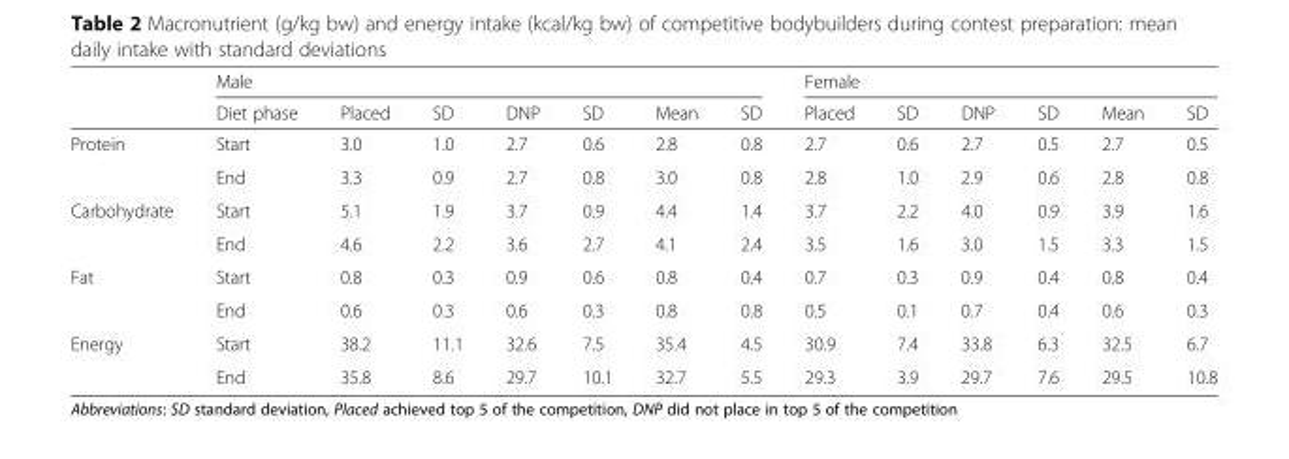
<table><thead><tr><td rowspan="2"></td><td colspan="7">Male</td><td colspan="6">Female</td></tr><tr><td>Diet phase</td><td>Placed</td><td>SD</td><td>DNP</td><td>SD</td><td>Mean</td><td>SD</td><td>Placed</td><td>SD</td><td>DNP</td><td>SD</td><td>Mean</td><td>SD</td></tr></thead><tbody><tr><td rowspan="2">Protein</td><td>Start</td><td>3.0</td><td>1.0</td><td>2.7</td><td>0.6</td><td>2.8</td><td>0.8</td><td>2.7</td><td>0.6</td><td>2.7</td><td>0.5</td><td>2.7</td><td>0.5</td></tr><tr><td>End</td><td>3.3</td><td>0.9</td><td>2.7</td><td>0.8</td><td>3.0</td><td>0.8</td><td>2.8</td><td>1.0</td><td>2.9</td><td>0.6</td><td>2.8</td><td>0.8</td></tr><tr><td rowspan="2">Carbohydrate</td><td>Start</td><td>5.1</td><td>1.9</td><td>3.7</td><td>0.9</td><td>4.4</td><td>1.4</td><td>3.7</td><td>2.2</td><td>4.0</td><td>0.9</td><td>3.9</td><td>1.6</td></tr><tr><td>End</td><td>4.6</td><td>2.2</td><td>3.6</td><td>2.7</td><td>4.1</td><td>2.4</td><td>3.5</td><td>1.6</td><td>3.0</td><td>1.5</td><td>3.3</td><td>1.5</td></tr><tr><td rowspan="2">Fat</td><td>Start</td><td>0.8</td><td>0.3</td><td>0.9</td><td>0.6</td><td>0.8</td><td>0.4</td><td>0.7</td><td>0.3</td><td>0.9</td><td>0.4</td><td>0.8</td><td>0.4</td></tr><tr><td>End</td><td>0.6</td><td>0.3</td><td>0.6</td><td>0.3</td><td>0.8</td><td>0.8</td><td>0.5</td><td>0.1</td><td>0.7</td><td>0.4</td><td>0.6</td><td>0.3</td></tr><tr><td rowspan="2">Energy</td><td>Start</td><td>38.2</td><td>11.1</td><td>32.6</td><td>7.5</td><td>35.4</td><td>4.5</td><td>30.9</td><td>7.4</td><td>33.8</td><td>6.3</td><td>32.5</td><td>6.7</td></tr><tr><td>End</td><td>35.8</td><td>8.6</td><td>29.7</td><td>10.1</td><td>32.7</td><td>5.5</td><td>29.3</td><td>3.9</td><td>29.7</td><td>7.6</td><td>29.5</td><td>10.8</td></tr></tbody></table>